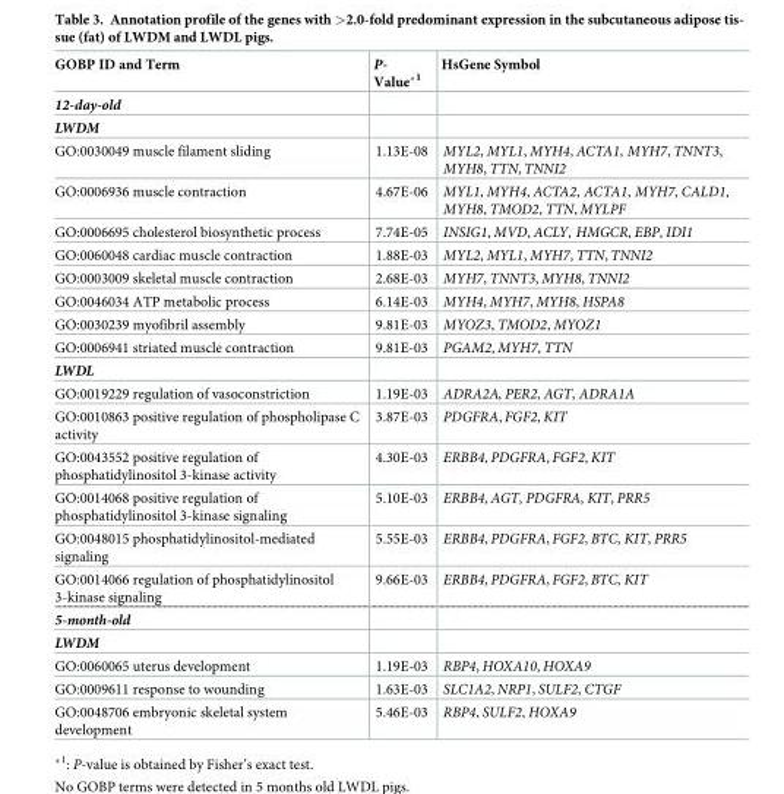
<table><thead><tr><td>GOBP ID and Term</td><td>P- Value*<sup>1</sup></td><td>HsGene Symbol</td></tr></thead><tbody><tr><td colspan="3">12-day-old</td></tr><tr><td colspan="3">LWDM</td></tr><tr><td>GO:0030049 muscle filament sliding</td><td>1.13E-08</td><td>MYL2, MYL1, MYH4, ACTA1, MYH7, TNNT3, MYH8, TTN, TNNI2</td></tr><tr><td>GO:0006936 muscle contraction</td><td>4.67E-06</td><td>MYL1, MYH4, ACTA2, ACTA1, MYH7, CALD1, MYH8, TMOD2, TTN, MYLPF</td></tr><tr><td>GO:0006695 cholesterol biosynthetic process</td><td>7.74E-05</td><td>INSIG1, MVD, ACLY, HMGCR, EBP, IDI1</td></tr><tr><td>GO:0060048 cardiac muscle contraction</td><td>1.88E-03</td><td>MYL2, MYL1, MYH7, TTN, TNNI2</td></tr><tr><td>GO:0003009 skeletal muscle contraction</td><td>2.68E-03</td><td>MYH7, TNNT3, MYH8, TNNI2</td></tr><tr><td>GO:0046034 ATP metabolic process</td><td>6.14E-03</td><td>MYH4, MYH7, MYH8, HSPA8</td></tr><tr><td>GO:0030239 myofibril assembly</td><td>9.81E-03</td><td>MYOZ3, TMOD2, MYOZ1</td></tr><tr><td>GO:0006941 striated muscle contraction</td><td>9.81E-03</td><td>PGAM2, MYH7, TTN</td></tr><tr><td colspan="3">LWDL</td></tr><tr><td>GO:0019229 regulation of vasoconstriction</td><td>1.19E-03</td><td>ADRA2A, PER2, AGT, ADRA1A</td></tr><tr><td>GO:0010863 positive regulation of phospholipase C activity</td><td>3.87E-03</td><td>PDGFRA, FGF2, KIT</td></tr><tr><td>GO:0043552 positive regulation of phosphatidylinositol 3-kinase activity</td><td>4.30E-03</td><td>ERBB4, PDGFRA, FGF2, KIT</td></tr><tr><td>GO:0014068 positive regulation of phosphatidylinositol 3-kinase signaling</td><td>5.10E-03</td><td>ERBB4, AGT, PDGFRA, KIT, PRR5</td></tr><tr><td>GO:0048015 phosphatidylinositol-mediated signaling</td><td>5.55E-03</td><td>ERBB4, PDGFRA, FGF2, BTC, KIT, PRR5</td></tr><tr><td>GO:0014066 regulation of phosphatidylinositol 3-kinase signaling</td><td>9.66E-03</td><td>ERBB4, PDGFRA, FGF2, BTC, KIT</td></tr><tr><td colspan="3">5-month-old</td></tr><tr><td colspan="3">LWDM</td></tr><tr><td>GO:0060065 uterus development</td><td>1.19E-03</td><td>RBP4, HOXA10, HOXA9</td></tr><tr><td>GO:0009611 response to wounding</td><td>1.63E-03</td><td>SLC1A2, NRP1, SULF2, CTGF</td></tr><tr><td>GO:0048706 embryonic skeletal system development</td><td>5.46E-03</td><td>RBP4, SULF2, HOXA9</td></tr></tbody></table>